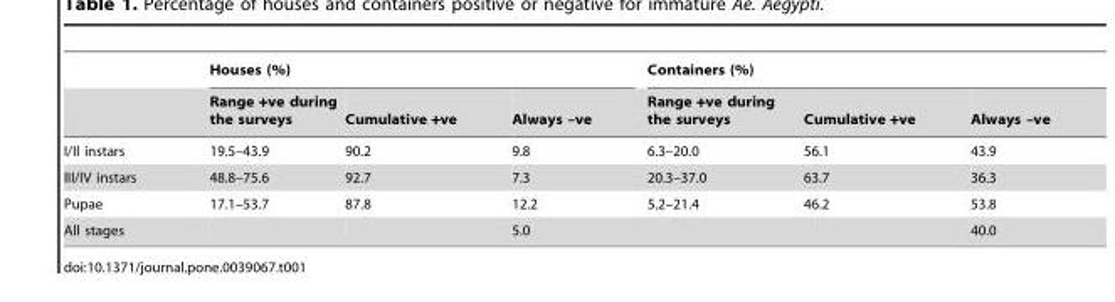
<table><thead><tr><td rowspan="2"></td><td colspan="3">Houses (%)</td><td colspan="3">Containers (%)</td></tr><tr><td>Range +ve during the surveys</td><td>Cumulative +ve</td><td>Always –ve</td><td>Range +ve during the surveys</td><td>Cumulative +ve</td><td>Always –ve</td></tr></thead><tbody><tr><td>I/II instars</td><td>19.5–43.9</td><td>90.2</td><td>9.8</td><td>6.3–20.0</td><td>56.1</td><td>43.9</td></tr><tr><td>III/IV instars</td><td>48.8–75.6</td><td>92.7</td><td>7.3</td><td>20.3–37.0</td><td>63.7</td><td>36.3</td></tr><tr><td>Pupae</td><td>17.1–53.7</td><td>87.8</td><td>12.2</td><td>5.2–21.4</td><td>46.2</td><td>53.8</td></tr><tr><td>All stages</td><td></td><td></td><td>5.0</td><td></td><td></td><td>40.0</td></tr></tbody></table>